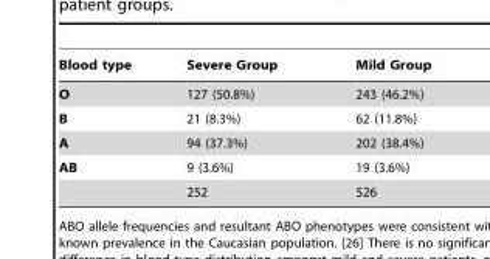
<table><thead><tr><td>Blood type</td><td>Severe Group</td><td>Mild Group</td></tr></thead><tbody><tr><td>O</td><td>127 (50.8%)</td><td>243 (46.2%)</td></tr><tr><td>B</td><td>21 (8.3%)</td><td>62 (11.8%)</td></tr><tr><td>A</td><td>94 (37.3%)</td><td>202 (38.4%)</td></tr><tr><td rowspan="2">AB</td><td>9 (3.6%)</td><td>19 (3.6%)</td></tr><tr><td>252</td><td>526</td></tr></tbody></table>